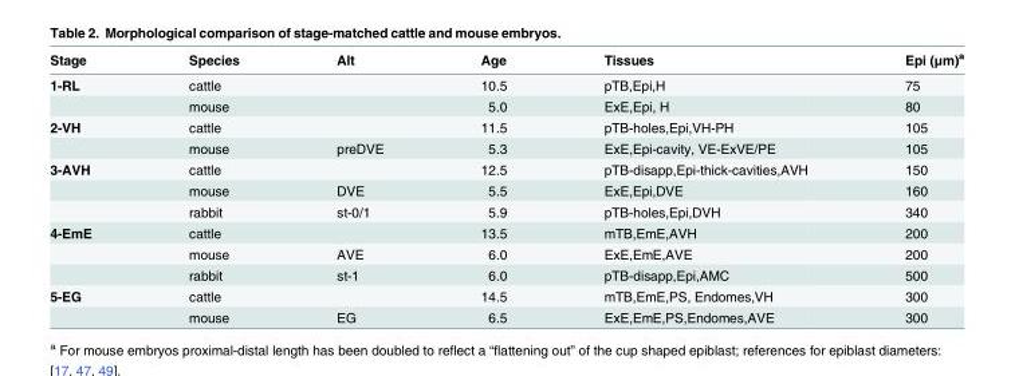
<table><thead><tr><td>Stage</td><td>Species</td><td>Alt</td><td>Age</td><td>Tissues</td><td>Epi (μm)<sup>a</sup></td></tr></thead><tbody><tr><td rowspan="2">1-RL</td><td>cattle</td><td></td><td>10.5</td><td>pTB,Epi,H</td><td>75</td></tr><tr><td>mouse</td><td></td><td>5.0</td><td>ExE,Epi, H</td><td>80</td></tr><tr><td rowspan="2">2-VH</td><td>cattle</td><td></td><td>11.5</td><td>pTB-holes,Epi,VH-PH</td><td>105</td></tr><tr><td>mouse</td><td>preDVE</td><td>5.3</td><td>ExE,Epi-cavity, VE-ExVE/PE</td><td>105</td></tr><tr><td rowspan="3">3-AVH</td><td>cattle</td><td></td><td>12.5</td><td>pTB-disapp,Epi-thick-cavities,AVH</td><td>150</td></tr><tr><td>mouse</td><td>DVE</td><td>5.5</td><td>ExE,Epi,DVE</td><td>160</td></tr><tr><td>rabbit</td><td>st-0/1</td><td>5.9</td><td>pTB-holes,Epi,DVH</td><td>340</td></tr><tr><td rowspan="3">4-EmE</td><td>cattle</td><td></td><td>13.5</td><td>mTB,EmE,AVH</td><td>200</td></tr><tr><td>mouse</td><td>AVE</td><td>6.0</td><td>ExE,EmE,AVE</td><td>200</td></tr><tr><td>rabbit</td><td>st-1</td><td>6.0</td><td>pTB-disapp,Epi,AMC</td><td>500</td></tr><tr><td rowspan="2">5-EG</td><td>cattle</td><td></td><td>14.5</td><td>mTB,EmE,PS, Endomes,VH</td><td>300</td></tr><tr><td>mouse</td><td>EG</td><td>6.5</td><td>ExE,EmE,PS,Endomes,AVE</td><td>300</td></tr></tbody></table>